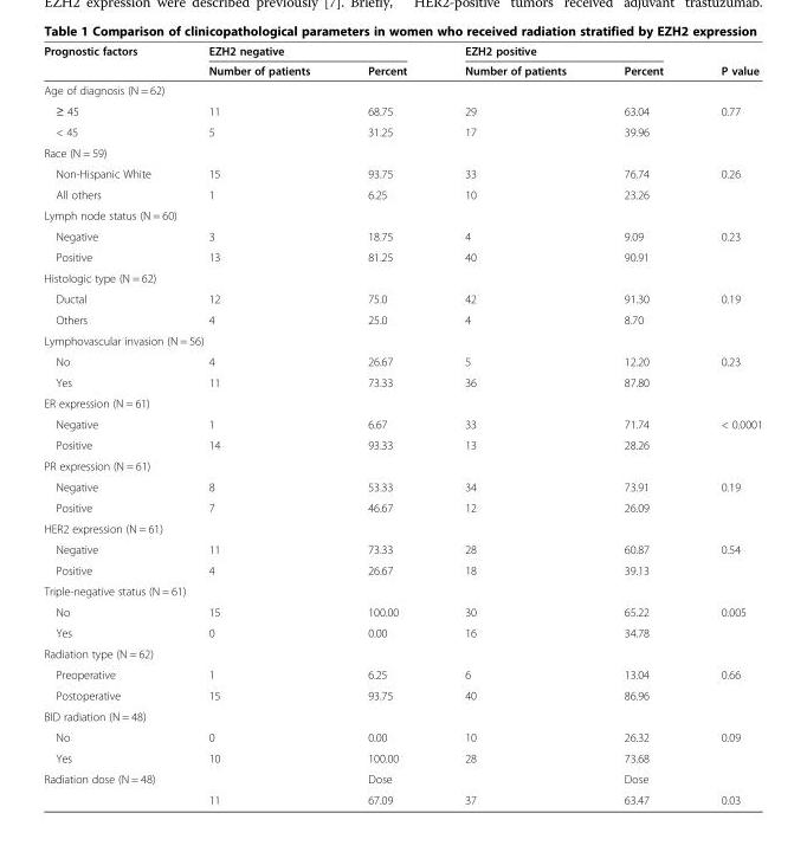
<table><thead><tr><td rowspan="2">Prognostic factors</td><td colspan="2">EZH2 negative</td><td colspan="2">EZH2 positive</td><td rowspan="2">P value</td></tr><tr><td>Number of patients</td><td>Percent</td><td>Number of patients</td><td>Percent</td></tr></thead><tbody><tr><td colspan="6">Age of diagnosis (N = 62)</td></tr><tr><td>≥ 45</td><td>11</td><td>68.75</td><td>29</td><td>63.04</td><td rowspan="2">0.77</td></tr><tr><td>&lt; 45</td><td>5</td><td>31.25</td><td>17</td><td>39.96</td></tr><tr><td colspan="6">Race (N = 59)</td></tr><tr><td>Non-Hispanic White</td><td>15</td><td>93.75</td><td>33</td><td>76.74</td><td rowspan="2">0.26</td></tr><tr><td>All others</td><td>1</td><td>6.25</td><td>10</td><td>23.26</td></tr><tr><td colspan="6">Lymph node status (N = 60)</td></tr><tr><td>Negative</td><td>3</td><td>18.75</td><td>4</td><td>9.09</td><td rowspan="2">0.23</td></tr><tr><td>Positive</td><td>13</td><td>81.25</td><td>40</td><td>90.91</td></tr><tr><td colspan="6">Histologic type (N = 62)</td></tr><tr><td>Ductal</td><td>12</td><td>75.0</td><td>42</td><td>91.30</td><td rowspan="2">0.19</td></tr><tr><td>Others</td><td>4</td><td>25.0</td><td>4</td><td>8.70</td></tr><tr><td colspan="6">Lymphovascular invasion (N = 56)</td></tr><tr><td>No</td><td>4</td><td>26.67</td><td>5</td><td>12.20</td><td rowspan="2">0.23</td></tr><tr><td>Yes</td><td>11</td><td>73.33</td><td>36</td><td>87.80</td></tr><tr><td colspan="6">ER expression (N = 61)</td></tr><tr><td>Negative</td><td>1</td><td>6.67</td><td>33</td><td>71.74</td><td rowspan="2">&lt; 0.0001</td></tr><tr><td>Positive</td><td>14</td><td>93.33</td><td>13</td><td>28.26</td></tr><tr><td colspan="6">PR expression (N = 61)</td></tr><tr><td>Negative</td><td>8</td><td>53.33</td><td>34</td><td>73.91</td><td rowspan="2">0.19</td></tr><tr><td>Positive</td><td>7</td><td>46.67</td><td>12</td><td>26.09</td></tr><tr><td colspan="6">HER2 expression (N = 61)</td></tr><tr><td>Negative</td><td>11</td><td>73.33</td><td>28</td><td>60.87</td><td rowspan="2">0.54</td></tr><tr><td>Positive</td><td>4</td><td>26.67</td><td>18</td><td>39.13</td></tr><tr><td colspan="6">Triple-negative status (N = 61)</td></tr><tr><td>No</td><td>15</td><td>100.00</td><td>30</td><td>65.22</td><td rowspan="2">0.005</td></tr><tr><td>Yes</td><td>0</td><td>0.00</td><td>16</td><td>34.78</td></tr><tr><td colspan="6">Radiation type (N = 62)</td></tr><tr><td>Preoperative</td><td>1</td><td>6.25</td><td>6</td><td>13.04</td><td rowspan="2">0.66</td></tr><tr><td>Postoperative</td><td>15</td><td>93.75</td><td>40</td><td>86.96</td></tr><tr><td colspan="6">BID radiation (N = 48)</td></tr><tr><td>No</td><td>0</td><td>0.00</td><td>10</td><td>26.32</td><td rowspan="2">0.09</td></tr><tr><td>Yes</td><td>10</td><td>100.00</td><td>28</td><td>73.68</td></tr><tr><td colspan="2">Radiation dose (N = 48)</td><td>Dose</td><td></td><td>Dose</td><td></td></tr><tr><td></td><td>11</td><td>67.09</td><td>37</td><td>63.47</td><td>0.03</td></tr></tbody></table>